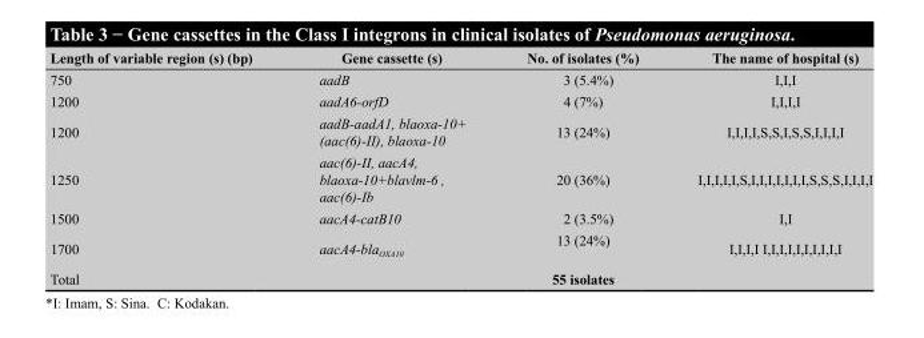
<table><thead><tr><td>Length of variable region (s) (bp)</td><td>Gene cassette (s)</td><td>No. of isolates (%)</td><td>The name of hospital (s)</td></tr></thead><tbody><tr><td>750</td><td>aadB</td><td>3 (5.4%)</td><td>I,I,I</td></tr><tr><td>1200</td><td>aadA6-orfD</td><td>4 (7%)</td><td>I,I,I,I</td></tr><tr><td>1200</td><td>aadB-aadA1, blaoxa-10+ (aac(6)-II), blaoxa-10</td><td>13 (24%)</td><td>I,I,I,I,S,S,I,S,S,I,I,I,I</td></tr><tr><td>1250</td><td>aac(6)-II, aacA4, blaoxa-10+blavlm-6 , aac(6)-Ib</td><td>20 (36%)</td><td>I,I,I,I,I,S,I,I,I,I,I,I,I,S,S,S,I,I,I,I</td></tr><tr><td>1500</td><td>aacA4-catB10</td><td>2 (3.5%)</td><td>I,I</td></tr><tr><td>1700</td><td>aacA4-bla<sub>OXA10</sub></td><td>13 (24%)</td><td>I,I,I,I I,I,I,I,I,I,I,I,I,I</td></tr><tr><td>Total</td><td></td><td>55 isolates</td><td></td></tr></tbody></table>